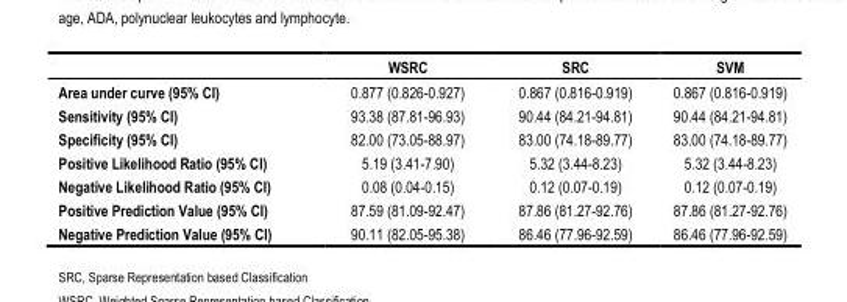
<table><thead><tr><td></td><td>WSRC</td><td>SRC</td><td>SVM</td></tr></thead><tbody><tr><td>Area under curve (95% CI)</td><td>0.877 (0.826-0.927)</td><td>0.867 (0.816-0.919)</td><td>0.867 (0.816-0.919)</td></tr><tr><td>Sensitivity (95% CI)</td><td>93.38 (87.81-96.93)</td><td>90.44 (84.21-94.81)</td><td>90.44 (84.21-94.81)</td></tr><tr><td>Specificity (95% CI)</td><td>82.00 (73.05-88.97)</td><td>83.00 (74.18-89.77)</td><td>83.00 (74.18-89.77)</td></tr><tr><td>Positive Likelihood Ratio (95% CI)</td><td>5.19 (3.41-7.90)</td><td>5.32 (3.44-8.23)</td><td>5.32 (3.44-8.23)</td></tr><tr><td>Negative Likelihood Ratio (95% CI)</td><td>0.08 (0.04-0.15)</td><td>0.12 (0.07-0.19)</td><td>0.12 (0.07-0.19)</td></tr><tr><td>Positive Prediction Value (95% CI)</td><td>87.59 (81.09-92.47)</td><td>87.86 (81.27-92.76)</td><td>87.86 (81.27-92.76)</td></tr><tr><td>Negative Prediction Value (95% CI)</td><td>90.11 (82.05-95.38)</td><td>86.46 (77.96-92.59)</td><td>86.46 (77.96-92.59)</td></tr></tbody></table>